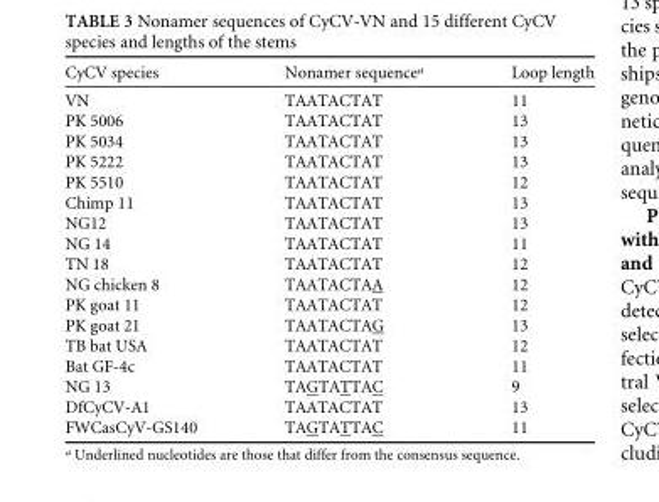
<table><thead><tr><td>CyCV species</td><td>Nonamer sequence<sup>a</sup></td><td>Loop length</td></tr></thead><tbody><tr><td>VN</td><td>TAATACTAT</td><td>11</td></tr><tr><td>PK 5006</td><td>TAATACTAT</td><td>13</td></tr><tr><td>PK 5034</td><td>TAATACTAT</td><td>13</td></tr><tr><td>PK 5222</td><td>TAATACTAT</td><td>13</td></tr><tr><td>PK 5510</td><td>TAATACTAT</td><td>12</td></tr><tr><td>Chimp 11</td><td>TAATACTAT</td><td>13</td></tr><tr><td>NG12</td><td>TAATACTAT</td><td>13</td></tr><tr><td>NG 14</td><td>TAATACTAT</td><td>11</td></tr><tr><td>TN 18</td><td>TAATACTAT</td><td>12</td></tr><tr><td>NG chicken 8</td><td>TAATACTAA</td><td>12</td></tr><tr><td>PK goat 11</td><td>TAATACTAT</td><td>12</td></tr><tr><td>PK goat 21</td><td>TAATACTAG</td><td>13</td></tr><tr><td>TB bat USA</td><td>TAATACTAT</td><td>12</td></tr><tr><td>Bat GF-4c</td><td>TAATACTAT</td><td>11</td></tr><tr><td>NG 13</td><td>TAGTATTAC</td><td>9</td></tr><tr><td>DfCyCV-A1</td><td>TAATACTAT</td><td>13</td></tr><tr><td>FWCasCyV-GS140</td><td>TAGTATTAC</td><td>11</td></tr></tbody></table>